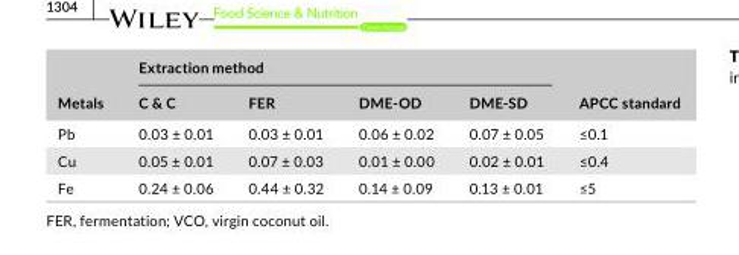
<table><thead><tr><td rowspan="2">Metals</td><td colspan="4">Extraction method</td><td rowspan="2">APCC standard</td></tr><tr><td>C &amp; C</td><td>FER</td><td>DME- OD</td><td>DME- SD</td></tr></thead><tbody><tr><td>Pb</td><td>0.03 ± 0.01</td><td>0.03 ± 0.01</td><td>0.06 ± 0.02</td><td>0.07 ± 0.05</td><td>≤0.1</td></tr><tr><td>Cu</td><td>0.05 ± 0.01</td><td>0.07 ± 0.03</td><td>0.01 ± 0.00</td><td>0.02 ± 0.01</td><td>≤0.4</td></tr><tr><td>Fe</td><td>0.24 ± 0.06</td><td>0.44 ± 0.32</td><td>0.14 ± 0.09</td><td>0.13 ± 0.01</td><td>≤5</td></tr></tbody></table>